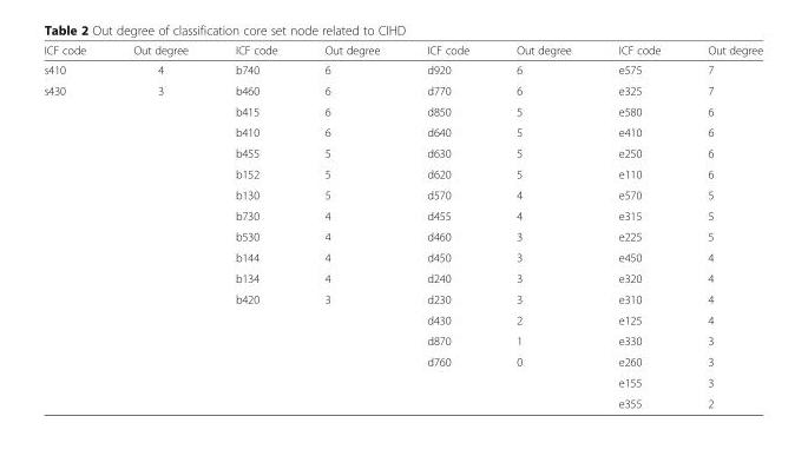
<table><thead><tr><td>ICF code</td><td>Out degree</td><td>ICF code</td><td>Out degree</td><td>ICF code</td><td>Out degree</td><td>ICF code</td><td>Out degree</td></tr></thead><tbody><tr><td>s410</td><td>4</td><td>b740</td><td>6</td><td>d920</td><td>6</td><td>e575</td><td>7</td></tr><tr><td rowspan="16">s430</td><td>3</td><td>b460</td><td>6</td><td>d770</td><td>6</td><td>e325</td><td>7</td></tr><tr><td></td><td>b415</td><td>6</td><td>d850</td><td>5</td><td>e580</td><td>6</td></tr><tr><td></td><td>b410</td><td>6</td><td>d640</td><td>5</td><td>e410</td><td>6</td></tr><tr><td></td><td>b455</td><td>5</td><td>d630</td><td>5</td><td>e250</td><td>6</td></tr><tr><td></td><td>b152</td><td>5</td><td>d620</td><td>5</td><td>e110</td><td>6</td></tr><tr><td></td><td>b130</td><td>5</td><td>d570</td><td>4</td><td>e570</td><td>5</td></tr><tr><td></td><td>b730</td><td>4</td><td>d455</td><td>4</td><td>e315</td><td>5</td></tr><tr><td></td><td>b530</td><td>4</td><td>d460</td><td>3</td><td>e225</td><td>5</td></tr><tr><td></td><td>b144</td><td>4</td><td>d450</td><td>3</td><td>e450</td><td>4</td></tr><tr><td></td><td>b134</td><td>4</td><td>d240</td><td>3</td><td>e320</td><td>4</td></tr><tr><td></td><td>b420</td><td>3</td><td>d230</td><td>3</td><td>e310</td><td>4</td></tr><tr><td></td><td></td><td></td><td>d430</td><td>2</td><td>e125</td><td>4</td></tr><tr><td></td><td></td><td></td><td>d870</td><td>1</td><td>e330</td><td>3</td></tr><tr><td></td><td></td><td></td><td>d760</td><td>0</td><td>e260</td><td>3</td></tr><tr><td></td><td></td><td></td><td></td><td></td><td>e155</td><td>3</td></tr><tr><td></td><td></td><td></td><td></td><td></td><td>e355</td><td>2</td></tr></tbody></table>